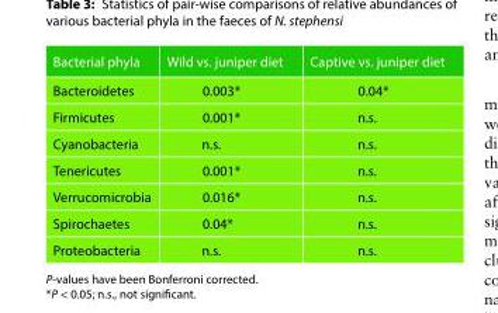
<table><thead><tr><td>Bacterial phyla</td><td>Wild vs. juniper diet</td><td>Captive vs. juniper diet</td></tr></thead><tbody><tr><td>Bacteroidetes</td><td>0.003*</td><td>0.04*</td></tr><tr><td>Firmicutes</td><td>0.001*</td><td>n.s.</td></tr><tr><td>Cyanobacteria</td><td>n.s.</td><td>n.s.</td></tr><tr><td>Tenericutes</td><td>0.001*</td><td>n.s.</td></tr><tr><td>Verrucomicrobia</td><td>0.016*</td><td>n.s.</td></tr><tr><td>Spirochaetes</td><td>0.04*</td><td>n.s.</td></tr><tr><td>Proteobacteria</td><td>n.s.</td><td>n.s.</td></tr></tbody></table>